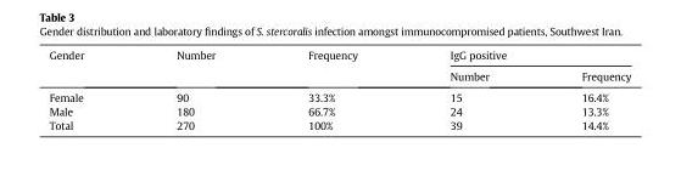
<table><thead><tr><td rowspan="2">Gender</td><td rowspan="2">Number</td><td rowspan="2">Frequency</td><td colspan="2">IgG positive</td></tr><tr><td>Number</td><td>Frequency</td></tr></thead><tbody><tr><td>Female</td><td>90</td><td>33.3%</td><td>15</td><td>16.4%</td></tr><tr><td>Male</td><td>180</td><td>66.7%</td><td>24</td><td>13.3%</td></tr><tr><td>Total</td><td>270</td><td>100%</td><td>39</td><td>14.4%</td></tr></tbody></table>